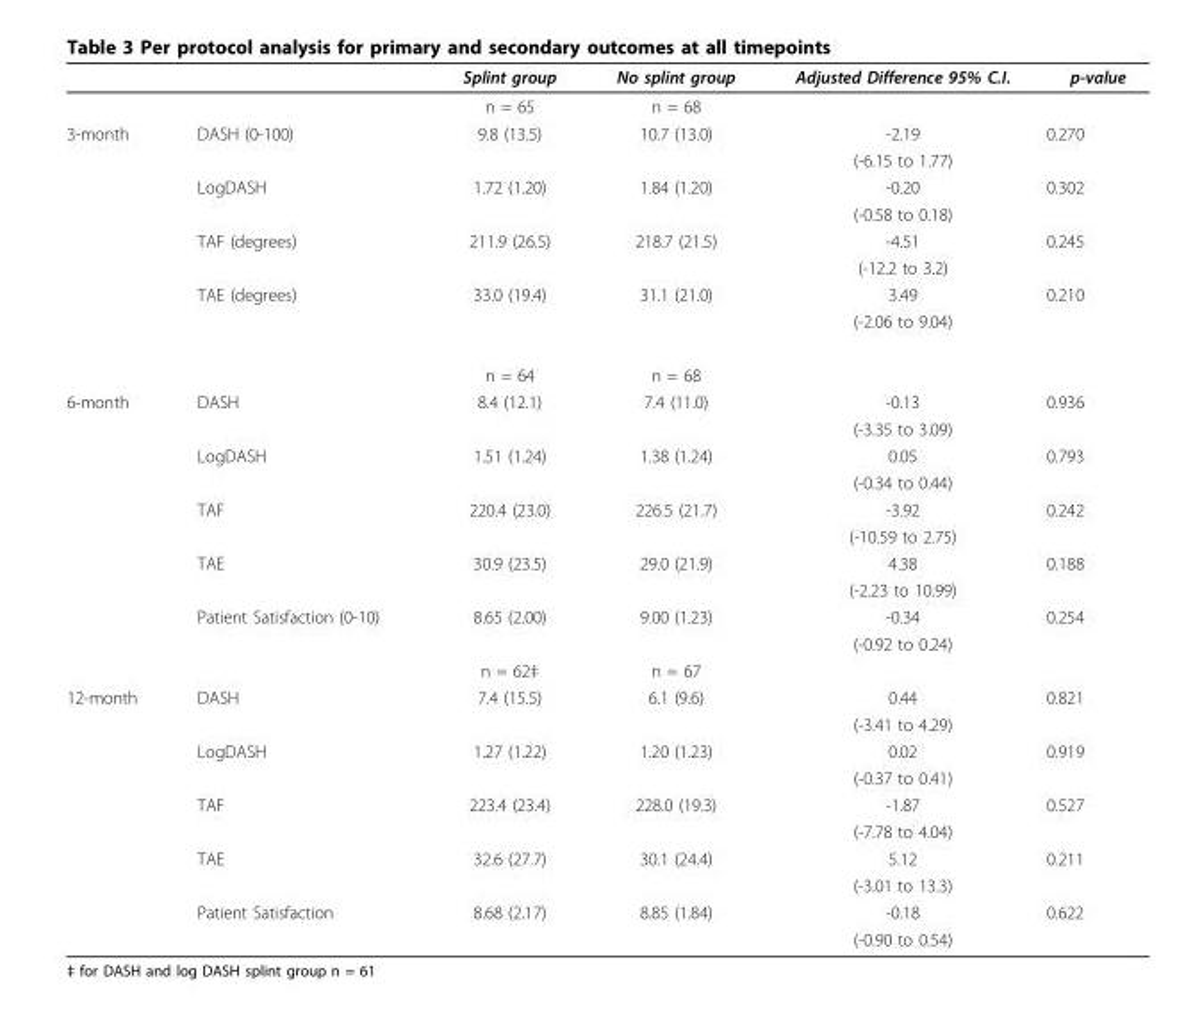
<table><thead><tr><td></td><td></td><td>Splint group</td><td>No splint group</td><td>Adjusted Difference 95% C.I.</td><td>p-value</td></tr></thead><tbody><tr><td></td><td></td><td>n = 65</td><td>n = 68</td><td></td><td></td></tr><tr><td rowspan="9">3-month</td><td>DASH (0-100)</td><td>9.8 (13.5)</td><td>10.7 (13.0)</td><td>-2.19</td><td>0.270</td></tr><tr><td></td><td></td><td></td><td>(-6.15 to 1.77)</td><td></td></tr><tr><td>LogDASH</td><td>1.72 (1.20)</td><td>1.84 (1.20)</td><td>-0.20</td><td>0.302</td></tr><tr><td></td><td></td><td></td><td>(-0.58 to 0.18)</td><td></td></tr><tr><td>TAF (degrees)</td><td>211.9 (26.5)</td><td>218.7 (21.5)</td><td>-4.51</td><td>0.245</td></tr><tr><td></td><td></td><td></td><td>(-12.2 to 3.2)</td><td></td></tr><tr><td>TAE (degrees)</td><td>33.0 (19.4)</td><td>31.1 (21.0)</td><td>3.49</td><td>0.210</td></tr><tr><td></td><td></td><td></td><td>(-2.06 to 9.04)</td><td></td></tr><tr><td></td><td>n = 64</td><td>n = 68</td><td></td><td></td></tr><tr><td rowspan="11">6-month</td><td>DASH</td><td>8.4 (12.1)</td><td>7.4 (11.0)</td><td>-0.13</td><td>0.936</td></tr><tr><td></td><td></td><td></td><td>(-3.35 to 3.09)</td><td></td></tr><tr><td>LogDASH</td><td>1.51 (1.24)</td><td>1.38 (1.24)</td><td>0.05</td><td>0.793</td></tr><tr><td></td><td></td><td></td><td>(-0.34 to 0.44)</td><td></td></tr><tr><td>TAF</td><td>220.4 (23.0)</td><td>226.5 (21.7)</td><td>-3.92</td><td>0.242</td></tr><tr><td></td><td></td><td></td><td>(-10.59 to 2.75)</td><td></td></tr><tr><td>TAE</td><td>30.9 (23.5)</td><td>29.0 (21.9)</td><td>4.38</td><td>0.188</td></tr><tr><td></td><td></td><td></td><td>(-2.23 to 10.99)</td><td></td></tr><tr><td>Patient Satisfaction (0-10)</td><td>8.65 (2.00)</td><td>9.00 (1.23)</td><td>-0.34</td><td>0.254</td></tr><tr><td></td><td></td><td></td><td>(-0.92 to 0.24)</td><td></td></tr><tr><td></td><td>n = 62‡</td><td>n = 67</td><td></td><td></td></tr><tr><td rowspan="10">12-month</td><td>DASH</td><td>7.4 (15.5)</td><td>6.1 (9.6)</td><td>0.44</td><td>0.821</td></tr><tr><td></td><td></td><td></td><td>(-3.41 to 4.29)</td><td></td></tr><tr><td>LogDASH</td><td>1.27 (1.22)</td><td>1.20 (1.23)</td><td>0.02</td><td>0.919</td></tr><tr><td></td><td></td><td></td><td>(-0.37 to 0.41)</td><td></td></tr><tr><td>TAF</td><td>223.4 (23.4)</td><td>228.0 (19.3)</td><td>-1.87</td><td>0.527</td></tr><tr><td></td><td></td><td></td><td>(-7.78 to 4.04)</td><td></td></tr><tr><td>TAE</td><td>32.6 (27.7)</td><td>30.1 (24.4)</td><td>5.12</td><td>0.211</td></tr><tr><td></td><td></td><td></td><td>(-3.01 to 13.3)</td><td></td></tr><tr><td>Patient Satisfaction</td><td>8.68 (2.17)</td><td>8.85 (1.84)</td><td>-0.18</td><td>0.622</td></tr><tr><td></td><td></td><td></td><td>(-0.90 to 0.54)</td><td></td></tr></tbody></table>